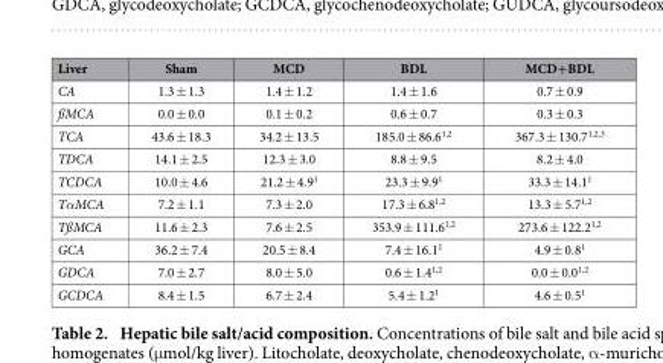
<table><thead><tr><td>Liver</td><td>Sham</td><td>MCD</td><td>BDL</td><td>MCD+BDL</td></tr></thead><tbody><tr><td>CA</td><td>1.3 ± 1.3</td><td>1.4 ± 1.2</td><td>1.4 ± 1.6</td><td>0.7 ± 0.9</td></tr><tr><td>ßMCA</td><td>0.0 ± 0.0</td><td>0.1 ± 0.2</td><td>0.6 ± 0.7</td><td>0.3 ± 0.3</td></tr><tr><td>TCA</td><td>43.6 ± 18.3</td><td>34.2 ± 13.5</td><td>185.0 ± 86.6<sup>1,2</sup></td><td>367.3 ± 130.7<sup>1,2,3</sup></td></tr><tr><td>TDCA</td><td>14.1 ± 2.5</td><td>12.3 ± 3.0</td><td>8.8 ± 9.5</td><td>8.2 ± 4.0</td></tr><tr><td>TCDCA</td><td>10.0 ± 4.6</td><td>21.2 ± 4.9<sup>1</sup></td><td>23.3 ± 9.9<sup>1</sup></td><td>33.3 ± 14.1<sup>1</sup></td></tr><tr><td>TαMCA</td><td>7.2 ± 1.1</td><td>7.3 ± 2.0</td><td>17.3 ± 6.8<sup>1,2</sup></td><td>13.3 ± 5.7<sup>1,2</sup></td></tr><tr><td>TßMCA</td><td>11.6 ± 2.3</td><td>7.6 ± 2.5</td><td>353.9 ± 111.6<sup>1,2</sup></td><td>273.6 ± 122.2<sup>1,2</sup></td></tr><tr><td>GCA</td><td>36.2 ± 7.4</td><td>20.5 ± 8.4</td><td>7.4 ± 16.1<sup>1</sup></td><td>4.9 ± 0.8<sup>1</sup></td></tr><tr><td>GDCA</td><td>7.0 ± 2.7</td><td>8.0 ± 5.0</td><td>0.6 ± 1.4<sup>1,2</sup></td><td>0.0 ± 0.0<sup>1,2</sup></td></tr><tr><td>GCDCA</td><td>8.4 ± 1.5</td><td>6.7 ± 2.4</td><td>5.4 ± 1.2<sup>1</sup></td><td>4.6 ± 0.5<sup>1</sup></td></tr></tbody></table>